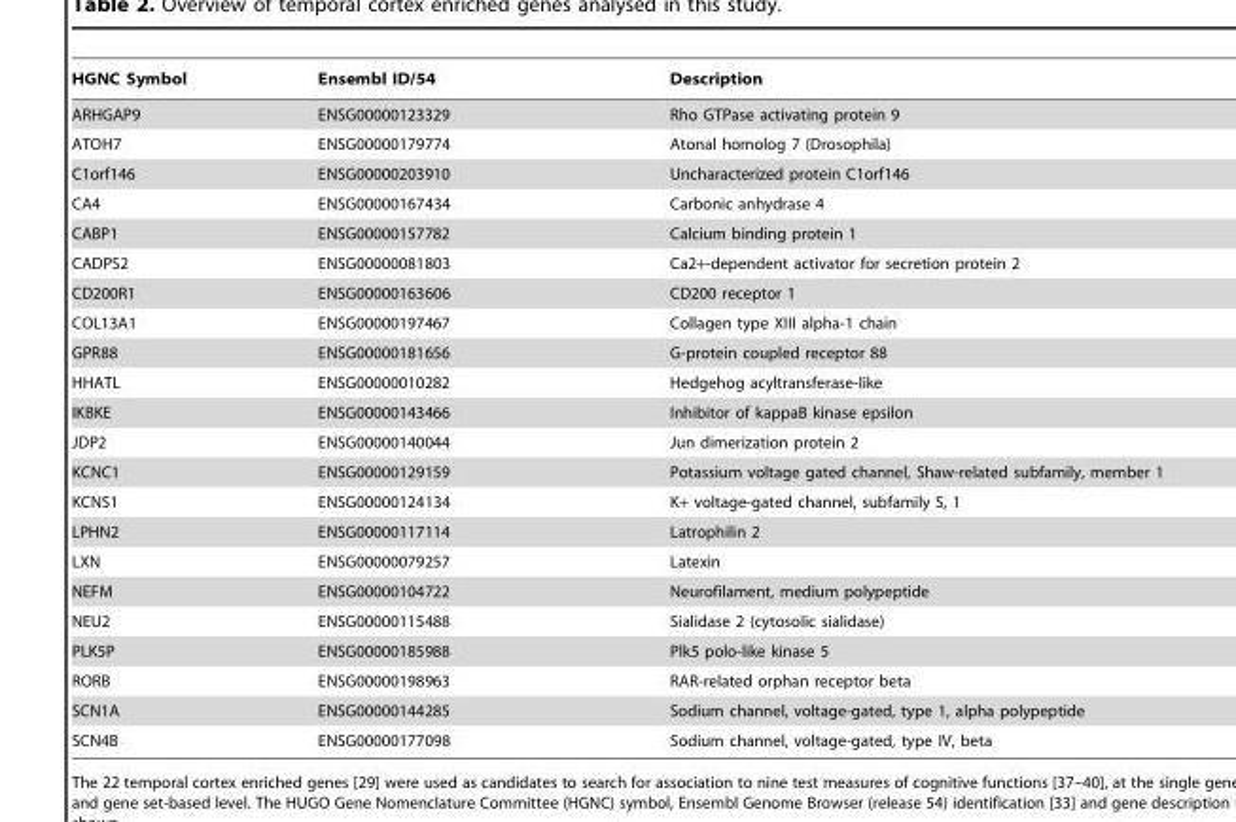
<table><thead><tr><td>HGNC Symbol</td><td>Ensembl ID/54</td><td>Description</td></tr></thead><tbody><tr><td>ARHGAP9</td><td>ENSG00000123329</td><td>Rho GTPase activating protein 9</td></tr><tr><td>ATOH7</td><td>ENSG00000179774</td><td>Atonal homolog 7 (Drosophila)</td></tr><tr><td>C1orf146</td><td>ENSG00000203910</td><td>Uncharacterized protein C1orf146</td></tr><tr><td>CA4</td><td>ENSG00000167434</td><td>Carbonic anhydrase 4</td></tr><tr><td>CABP1</td><td>ENSG00000157782</td><td>Calcium binding protein 1</td></tr><tr><td>CADPS2</td><td>ENSG00000081803</td><td>Ca2+-dependent activator for secretion protein 2</td></tr><tr><td>CD200R1</td><td>ENSG00000163606</td><td>CD200 receptor 1</td></tr><tr><td>COL13A1</td><td>ENSG00000197467</td><td>Collagen type XIII alpha-1 chain</td></tr><tr><td>GPR88</td><td>ENSG00000181656</td><td>G-protein coupled receptor 88</td></tr><tr><td>HHATL</td><td>ENSG00000010282</td><td>Hedgehog acyltransferase-like</td></tr><tr><td>IKBKE</td><td>ENSG00000143466</td><td>Inhibitor of kappaB kinase epsilon</td></tr><tr><td>JDP2</td><td>ENSG00000140044</td><td>Jun dimerization protein 2</td></tr><tr><td>KCNC1</td><td>ENSG00000129159</td><td>Potassium voltage gated channel, Shaw-related subfamily, member 1</td></tr><tr><td>KCNS1</td><td>ENSG00000124134</td><td>K+ voltage-gated channel, subfamily S, 1</td></tr><tr><td>LPHN2</td><td>ENSG00000117114</td><td>Latrophilin 2</td></tr><tr><td>LXN</td><td>ENSG00000079257</td><td>Latexin</td></tr><tr><td>NEFM</td><td>ENSG00000104722</td><td>Neurofilament, medium polypeptide</td></tr><tr><td>NEU2</td><td>ENSG00000115488</td><td>Sialidase 2 (cytosolic sialidase)</td></tr><tr><td>PLK5P</td><td>ENSG00000185988</td><td>Plk5 polo-like kinase 5</td></tr><tr><td>RORB</td><td>ENSG00000198963</td><td>RAR-related orphan receptor beta</td></tr><tr><td>SCN1A</td><td>ENSG00000144285</td><td>Sodium channel, voltage-gated, type 1, alpha polypeptide</td></tr><tr><td>SCN4B</td><td>ENSG00000177098</td><td>Sodium channel, voltage-gated, type IV, beta</td></tr></tbody></table>